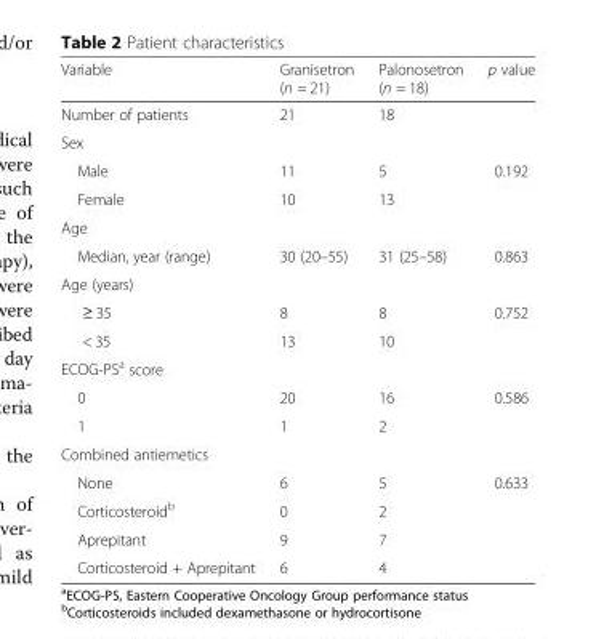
<table><thead><tr><td>Variable</td><td>Granisetron (n = 21)</td><td>Palonosetron (n = 18)</td><td>p value</td></tr></thead><tbody><tr><td>Number of patients</td><td>21</td><td>18</td><td></td></tr><tr><td colspan="4">Sex</td></tr><tr><td>Male</td><td>11</td><td>5</td><td>0.192</td></tr><tr><td>Female</td><td>10</td><td>13</td><td></td></tr><tr><td colspan="4">Age</td></tr><tr><td>Median, year (range)</td><td>30 (20–55)</td><td>31 (25–58)</td><td>0.863</td></tr><tr><td colspan="4">Age (years)</td></tr><tr><td>≥ 35</td><td>8</td><td>8</td><td>0.752</td></tr><tr><td>&lt; 35</td><td>13</td><td>10</td><td></td></tr><tr><td colspan="4">ECOG-PS<sup>a</sup> score</td></tr><tr><td>0</td><td>20</td><td>16</td><td>0.586</td></tr><tr><td>1</td><td>1</td><td>2</td><td></td></tr><tr><td colspan="4">Combined antiemetics</td></tr><tr><td>None</td><td>6</td><td>5</td><td>0.633</td></tr><tr><td>Corticosteroid<sup>b</sup></td><td>0</td><td>2</td><td></td></tr><tr><td>Aprepitant</td><td>9</td><td>7</td><td></td></tr><tr><td>Corticosteroid + Aprepitant</td><td>6</td><td>4</td><td></td></tr></tbody></table>